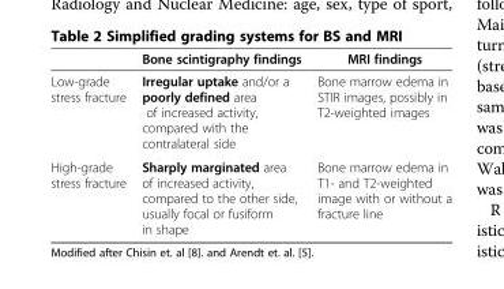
<table><thead><tr><td></td><td>Bone scintigraphy findings</td><td>MRI findings</td></tr></thead><tbody><tr><td>Low-grade stress fracture</td><td>Irregular uptake and/or a poorly defined area of increased activity, compared with the contralateral side</td><td>Bone marrow edema in STIR images, possibly in T2-weighted images</td></tr><tr><td>High-grade stress fracture</td><td>Sharply marginated area of increased activity, compared to the other side, usually focal or fusiform in shape</td><td>Bone marrow edema in T1- and T2-weighted image with or without a fracture line</td></tr></tbody></table>